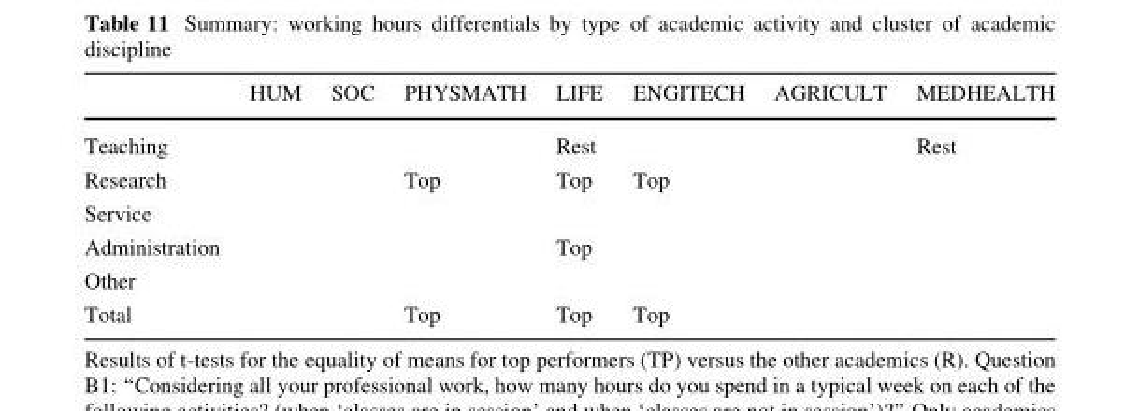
<table><thead><tr><td></td><td>HUM</td><td>SOC</td><td>PHYSMATH</td><td>LIFE</td><td>ENGITECH</td><td>AGRICULT</td><td>MEDHEALTH</td></tr></thead><tbody><tr><td>Teaching</td><td></td><td></td><td></td><td>Rest</td><td></td><td></td><td>Rest</td></tr><tr><td>Research</td><td></td><td></td><td>Top</td><td>Top</td><td>Top</td><td></td><td></td></tr><tr><td colspan="8">Service</td></tr><tr><td>Administration</td><td></td><td></td><td></td><td>Top</td><td></td><td></td><td></td></tr><tr><td colspan="8">Other</td></tr><tr><td>Total</td><td></td><td></td><td>Top</td><td>Top</td><td>Top</td><td></td><td></td></tr></tbody></table>